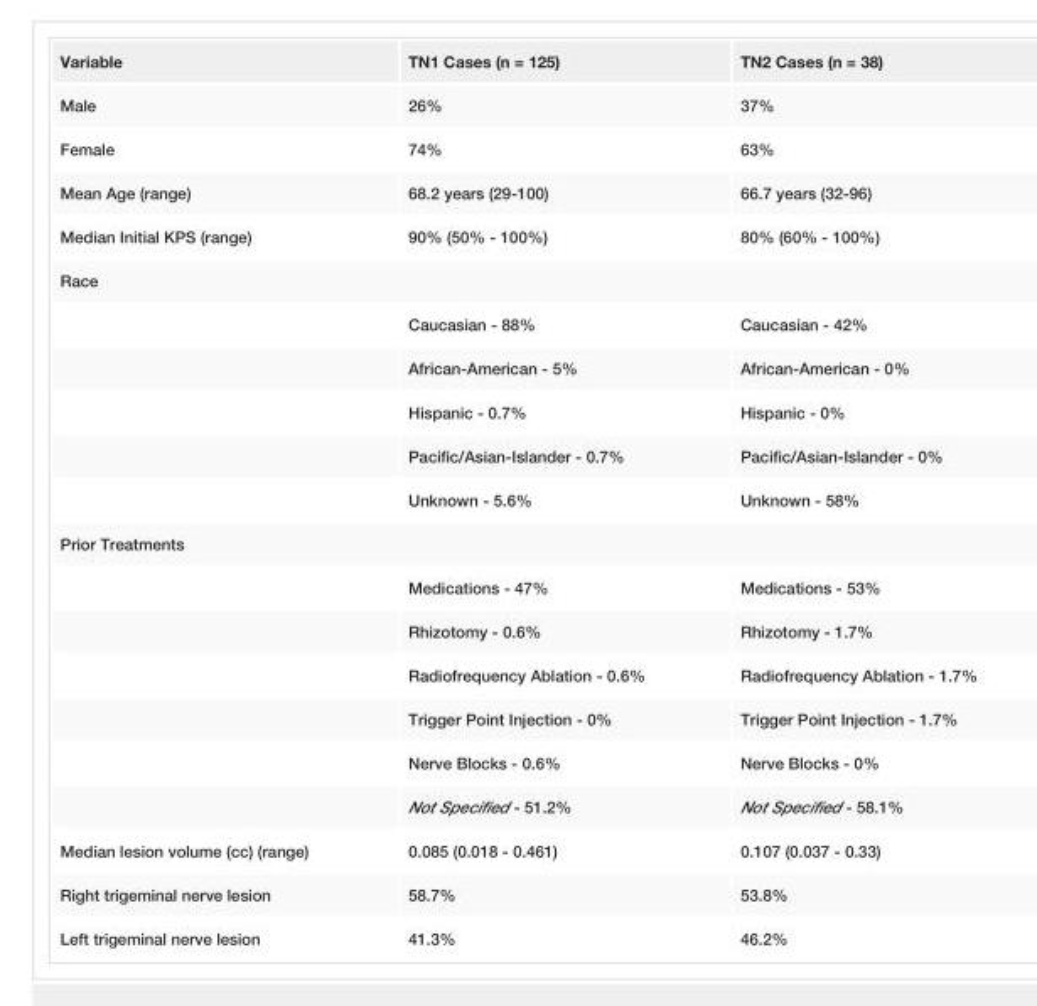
<table><tbody><tr><td>Variable</td><td>TN1 Cases (n = 125)</td><td>TN2 Cases (n = 38)</td></tr><tr><td>Male</td><td>26%</td><td>37%</td></tr><tr><td>Female</td><td>74%</td><td>63%</td></tr><tr><td>Mean Age (range)</td><td>68.2 years (29-100)</td><td>66.7 years (32-96)</td></tr><tr><td>Median Initial KPS (range)</td><td>90% (50% - 100%)</td><td>80% (60% - 100%)</td></tr><tr><td colspan="3">Race</td></tr><tr><td></td><td>Caucasian - 88%</td><td>Caucasian - 42%</td></tr><tr><td></td><td>African-American - 5%</td><td>African-American - 0%</td></tr><tr><td></td><td>Hispanic - 0.7%</td><td>Hispanic - 0%</td></tr><tr><td></td><td>Pacific/Asian-Islander - 0.7%</td><td>Pacific/Asian-Islander - 0%</td></tr><tr><td></td><td>Unknown - 5.6%</td><td>Unknown - 58%</td></tr><tr><td colspan="3">Prior Treatments</td></tr><tr><td></td><td>Medications - 47%</td><td>Medications - 53%</td></tr><tr><td></td><td>Rhizotomy - 0.6%</td><td>Rhizotomy - 1.7%</td></tr><tr><td></td><td>Radiofrequency Ablation - 0.6%</td><td>Radiofrequency Ablation - 1.7%</td></tr><tr><td></td><td>Trigger Point Injection - 0%</td><td>Trigger Point Injection - 1.7%</td></tr><tr><td></td><td>Nerve Blocks - 0.6%</td><td>Nerve Blocks - 0%</td></tr><tr><td></td><td>Not Specified - 51.2%</td><td>Not Specified - 58.1%</td></tr><tr><td>Median lesion volume (cc) (range)</td><td>0.085 (0.018 - 0.461)</td><td>0.107 (0.037 - 0.33)</td></tr><tr><td>Right trigeminal nerve lesion</td><td>58.7%</td><td>53.8%</td></tr><tr><td>Left trigeminal nerve lesion</td><td>41.3%</td><td>46.2%</td></tr></tbody></table>